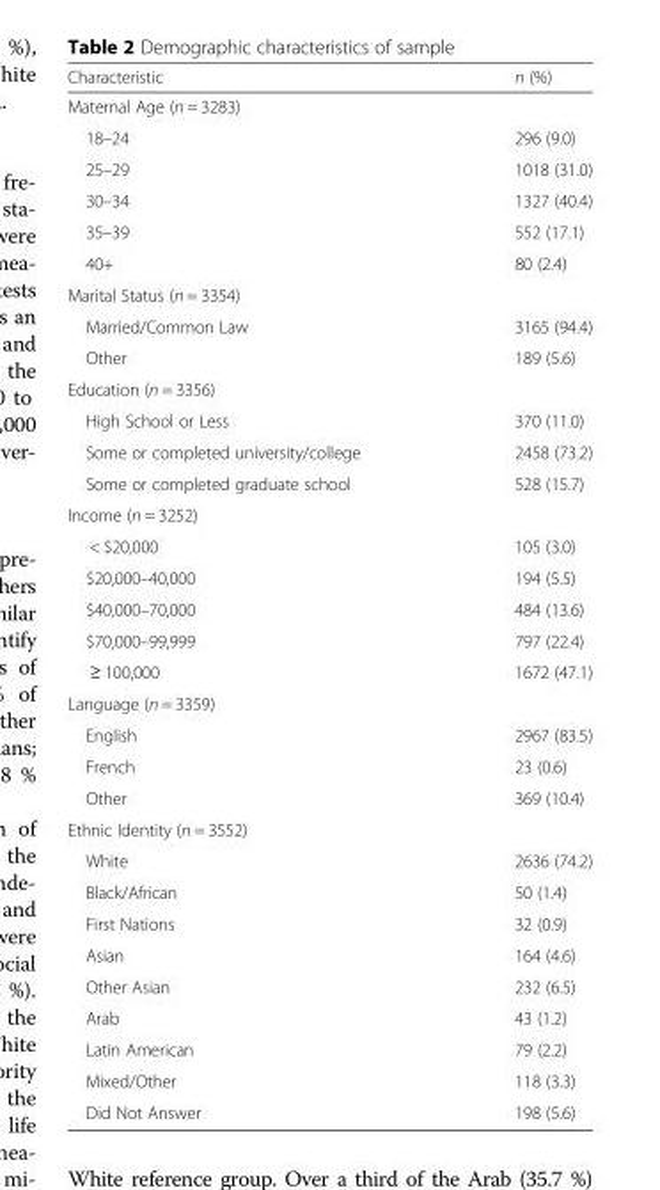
<table><thead><tr><td>Characteristic</td><td>n (%)</td></tr></thead><tbody><tr><td colspan="2">Maternal Age (n = 3283)</td></tr><tr><td>18–24</td><td>296 (9.0)</td></tr><tr><td>25–29</td><td>1018 (31.0)</td></tr><tr><td>30–34</td><td>1327 (40.4)</td></tr><tr><td>35–39</td><td>552 (17.1)</td></tr><tr><td>40+</td><td>80 (2.4)</td></tr><tr><td colspan="2">Marital Status (n = 3354)</td></tr><tr><td>Married/Common Law</td><td>3165 (94.4)</td></tr><tr><td>Other</td><td>189 (5.6)</td></tr><tr><td colspan="2">Education (n = 3356)</td></tr><tr><td>High School or Less</td><td>370 (11.0)</td></tr><tr><td>Some or completed university/college</td><td>2458 (73.2)</td></tr><tr><td>Some or completed graduate school</td><td>528 (15.7)</td></tr><tr><td colspan="2">Income (n = 3252)</td></tr><tr><td>&lt; $20,000</td><td>105 (3.0)</td></tr><tr><td>$20,000–40,000</td><td>194 (5.5)</td></tr><tr><td>$40,000–70,000</td><td>484 (13.6)</td></tr><tr><td>$70,000–99,999</td><td>797 (22.4)</td></tr><tr><td>≥ 100,000</td><td>1672 (47.1)</td></tr><tr><td colspan="2">Language (n = 3359)</td></tr><tr><td>English</td><td>2967 (83.5)</td></tr><tr><td>French</td><td>23 (0.6)</td></tr><tr><td>Other</td><td>369 (10.4)</td></tr><tr><td colspan="2">Ethnic Identity (n = 3552)</td></tr><tr><td>White</td><td>2636 (74.2)</td></tr><tr><td>Black/African</td><td>50 (1.4)</td></tr><tr><td>First Nations</td><td>32 (0.9)</td></tr><tr><td>Asian</td><td>164 (4.6)</td></tr><tr><td>Other Asian</td><td>232 (6.5)</td></tr><tr><td>Arab</td><td>43 (1.2)</td></tr><tr><td>Latin American</td><td>79 (2.2)</td></tr><tr><td>Mixed/Other</td><td>118 (3.3)</td></tr><tr><td>Did Not Answer</td><td>198 (5.6)</td></tr></tbody></table>